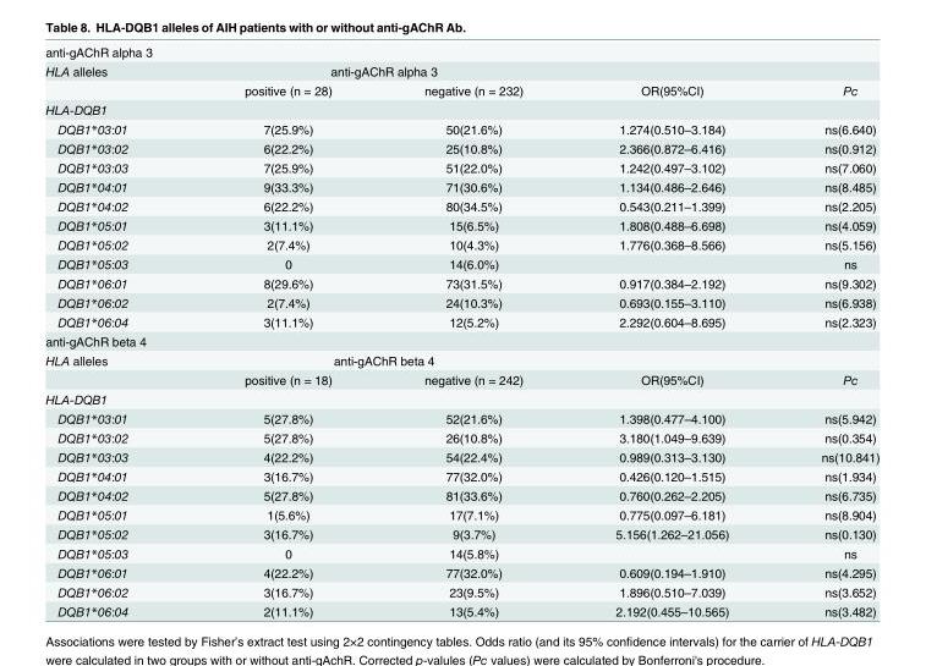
<table><tbody><tr><td colspan="5">anti-gAChR alpha 3</td></tr><tr><td rowspan="2">HLA alleles</td><td colspan="2">anti-gAChR alpha 3</td><td></td><td></td></tr><tr><td>positive (n = 28)</td><td>negative (n = 232)</td><td>OR(95%CI)</td><td>Pc</td></tr><tr><td colspan="5">HLA-DQB1</td></tr><tr><td>DQB1*03:01</td><td>7(25.9%)</td><td>50(21.6%)</td><td>1.274(0.510–3.184)</td><td>ns(6.640)</td></tr><tr><td>DQB1*03:02</td><td>6(22.2%)</td><td>25(10.8%)</td><td>2.366(0.872–6.416)</td><td>ns(0.912)</td></tr><tr><td>DQB1*03:03</td><td>7(25.9%)</td><td>51(22.0%)</td><td>1.242(0.497–3.102)</td><td>ns(7.060)</td></tr><tr><td>DQB1*04:01</td><td>9(33.3%)</td><td>71(30.6%)</td><td>1.134(0.486–2.646)</td><td>ns(8.485)</td></tr><tr><td>DQB1*04:02</td><td>6(22.2%)</td><td>80(34.5%)</td><td>0.543(0.211–1.399)</td><td>ns(2.205)</td></tr><tr><td>DQB1*05:01</td><td>3(11.1%)</td><td>15(6.5%)</td><td>1.808(0.488–6.698)</td><td>ns(4.059)</td></tr><tr><td>DQB1*05:02</td><td>2(7.4%)</td><td>10(4.3%)</td><td>1.776(0.368–8.566)</td><td>ns(5.156)</td></tr><tr><td>DQB1*05:03</td><td>0</td><td>14(6.0%)</td><td></td><td>ns</td></tr><tr><td>DQB1*06:01</td><td>8(29.6%)</td><td>73(31.5%)</td><td>0.917(0.384–2.192)</td><td>ns(9.302)</td></tr><tr><td>DQB1*06:02</td><td>2(7.4%)</td><td>24(10.3%)</td><td>0.693(0.155–3.110)</td><td>ns(6.938)</td></tr><tr><td>DQB1*06:04</td><td>3(11.1%)</td><td>12(5.2%)</td><td>2.292(0.604–8.695)</td><td>ns(2.323)</td></tr><tr><td colspan="5">anti-gAChR beta 4</td></tr><tr><td rowspan="2">HLA alleles</td><td colspan="2">anti-gAChR beta 4</td><td></td><td></td></tr><tr><td>positive (n = 18)</td><td>negative (n = 242)</td><td>OR(95%CI)</td><td>Pc</td></tr><tr><td colspan="5">HLA-DQB1</td></tr><tr><td>DQB1*03:01</td><td>5(27.8%)</td><td>52(21.6%)</td><td>1.398(0.477–4.100)</td><td>ns(5.942)</td></tr><tr><td>DQB1*03:02</td><td>5(27.8%)</td><td>26(10.8%)</td><td>3.180(1.049–9.639)</td><td>ns(0.354)</td></tr><tr><td>DQB1*03:03</td><td>4(22.2%)</td><td>54(22.4%)</td><td>0.989(0.313–3.130)</td><td>ns(10.841)</td></tr><tr><td>DQB1*04:01</td><td>3(16.7%)</td><td>77(32.0%)</td><td>0.426(0.120–1.515)</td><td>ns(1.934)</td></tr><tr><td>DQB1*04:02</td><td>5(27.8%)</td><td>81(33.6%)</td><td>0.760(0.262–2.205)</td><td>ns(6.735)</td></tr><tr><td>DQB1*05:01</td><td>1(5.6%)</td><td>17(7.1%)</td><td>0.775(0.097–6.181)</td><td>ns(8.904)</td></tr><tr><td>DQB1*05:02</td><td>3(16.7%)</td><td>9(3.7%)</td><td>5.156(1.262–21.056)</td><td>ns(0.130)</td></tr><tr><td>DQB1*05:03</td><td>0</td><td>14(5.8%)</td><td></td><td>ns</td></tr><tr><td>DQB1*06:01</td><td>4(22.2%)</td><td>77(32.0%)</td><td>0.609(0.194–1.910)</td><td>ns(4.295)</td></tr><tr><td>DQB1*06:02</td><td>3(16.7%)</td><td>23(9.5%)</td><td>1.896(0.510–7.039)</td><td>ns(3.652)</td></tr><tr><td>DQB1*06:04</td><td>2(11.1%)</td><td>13(5.4%)</td><td>2.192(0.455–10.565)</td><td>ns(3.482)</td></tr></tbody></table>